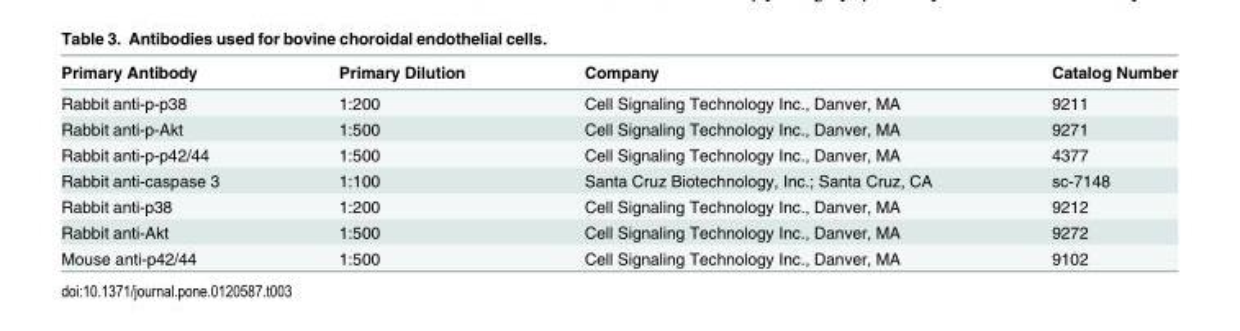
<table><thead><tr><td>Primary Antibody</td><td>Primary Dilution</td><td>Company</td><td>Catalog Number</td></tr></thead><tbody><tr><td>Rabbit anti-p-p38</td><td>1:200</td><td>Cell Signaling Technology Inc., Danver, MA</td><td>9211</td></tr><tr><td>Rabbit anti-p-Akt</td><td>1:500</td><td>Cell Signaling Technology Inc., Danver, MA</td><td>9271</td></tr><tr><td>Rabbit anti-p-p42/44</td><td>1:500</td><td>Cell Signaling Technology Inc., Danver, MA</td><td>4377</td></tr><tr><td>Rabbit anti-caspase 3</td><td>1:100</td><td>Santa Cruz Biotechnology, Inc.; Santa Cruz, CA</td><td>sc-7148</td></tr><tr><td>Rabbit anti-p38</td><td>1:200</td><td>Cell Signaling Technology Inc., Danver, MA</td><td>9212</td></tr><tr><td>Rabbit anti-Akt</td><td>1:500</td><td>Cell Signaling Technology Inc., Danver, MA</td><td>9272</td></tr><tr><td>Mouse anti-p42/44</td><td>1:500</td><td>Cell Signaling Technology Inc., Danver, MA</td><td>9102</td></tr></tbody></table>